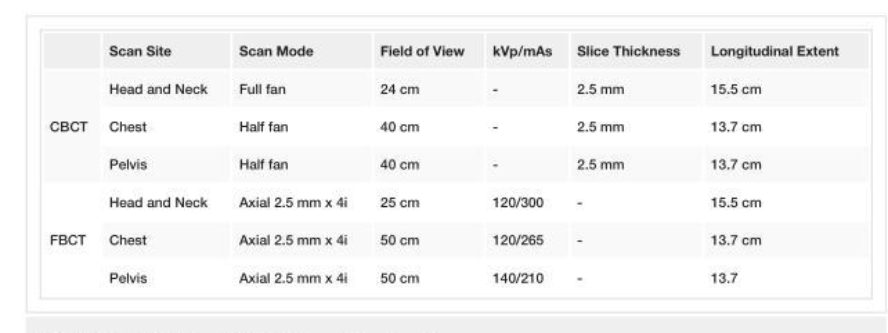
<table><thead><tr><td></td><td>Scan Site</td><td>Scan Mode</td><td>Field of View</td><td>kVp/mAs</td><td>Slice Thickness</td><td>Longitudinal Extent</td></tr></thead><tbody><tr><td rowspan="3">CBCT</td><td>Head and Neck</td><td>Full fan</td><td>24 cm</td><td>-</td><td>2.5 mm</td><td>15.5 cm</td></tr><tr><td>Chest</td><td>Half fan</td><td>40 cm</td><td>-</td><td>2.5 mm</td><td>13.7 cm</td></tr><tr><td>Pelvis</td><td>Half fan</td><td>40 cm</td><td>-</td><td>2.5 mm</td><td>13.7 cm</td></tr><tr><td rowspan="3">FBCT</td><td>Head and Neck</td><td>Axial 2.5 mm x 4i</td><td>25 cm</td><td>120/300</td><td>-</td><td>15.5 cm</td></tr><tr><td>Chest</td><td>Axial 2.5 mm x 4i</td><td>50 cm</td><td>120/265</td><td>-</td><td>13.7 cm</td></tr><tr><td>Pelvis</td><td>Axial 2.5 mm x 4i</td><td>50 cm</td><td>140/210</td><td>-</td><td>13.7</td></tr></tbody></table>